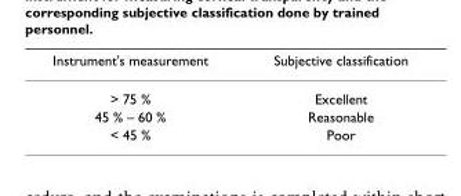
<table><thead><tr><td>Instrument&#x27;s measurement</td><td>Subjective classification</td></tr></thead><tbody><tr><td>&gt; 75 %</td><td>Excellent</td></tr><tr><td>45 % – 60 %</td><td>Reasonable</td></tr><tr><td>&lt; 45 %</td><td>Poor</td></tr></tbody></table>